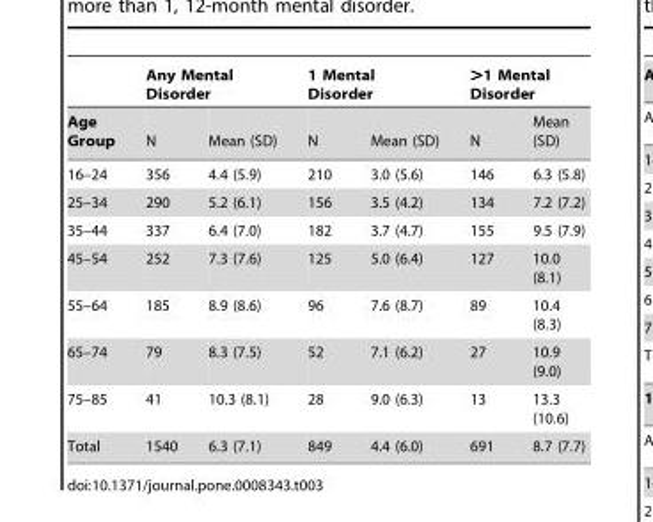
<table><thead><tr><td rowspan="2">Age Group</td><td colspan="2">Any Mental Disorder</td><td colspan="2">1 Mental Disorder</td><td colspan="2">&gt;1 Mental Disorder</td></tr><tr><td>N</td><td>Mean (SD)</td><td>N</td><td>Mean (SD)</td><td>N</td><td>Mean (SD)</td></tr></thead><tbody><tr><td>16–24</td><td>356</td><td>4.4 (5.9)</td><td>210</td><td>3.0 (5.6)</td><td>146</td><td>6.3 (5.8)</td></tr><tr><td>25–34</td><td>290</td><td>5.2 (6.1)</td><td>156</td><td>3.5 (4.2)</td><td>134</td><td>7.2 (7.2)</td></tr><tr><td>35–44</td><td>337</td><td>6.4 (7.0)</td><td>182</td><td>3.7 (4.7)</td><td>155</td><td>9.5 (7.9)</td></tr><tr><td>45–54</td><td>252</td><td>7.3 (7.6)</td><td>125</td><td>5.0 (6.4)</td><td>127</td><td>10.0 (8.1)</td></tr><tr><td>55–64</td><td>185</td><td>8.9 (8.6)</td><td>96</td><td>7.6 (8.7)</td><td>89</td><td>10.4 (8.3)</td></tr><tr><td>65–74</td><td>79</td><td>8.3 (7.5)</td><td>52</td><td>7.1 (6.2)</td><td>27</td><td>10.9 (9.0)</td></tr><tr><td>75–85</td><td>41</td><td>10.3 (8.1)</td><td>28</td><td>9.0 (6.3)</td><td>13</td><td>13.3 (10.6)</td></tr><tr><td>Total</td><td>1540</td><td>6.3 (7.1)</td><td>849</td><td>4.4 (6.0)</td><td>691</td><td>8.7 (7.7)</td></tr></tbody></table>